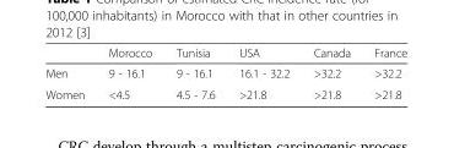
<table><thead><tr><td></td><td>Morocco</td><td>Tunisia</td><td>USA</td><td>Canada</td><td>France</td></tr></thead><tbody><tr><td>Men</td><td>9 - 16.1</td><td>9 - 16.1</td><td>16.1 - 32.2</td><td>&gt;32.2</td><td>&gt;32.2</td></tr><tr><td>Women</td><td>&lt;4.5</td><td>4.5 - 7.6</td><td>&gt;21.8</td><td>&gt;21.8</td><td>&gt;21.8</td></tr></tbody></table>